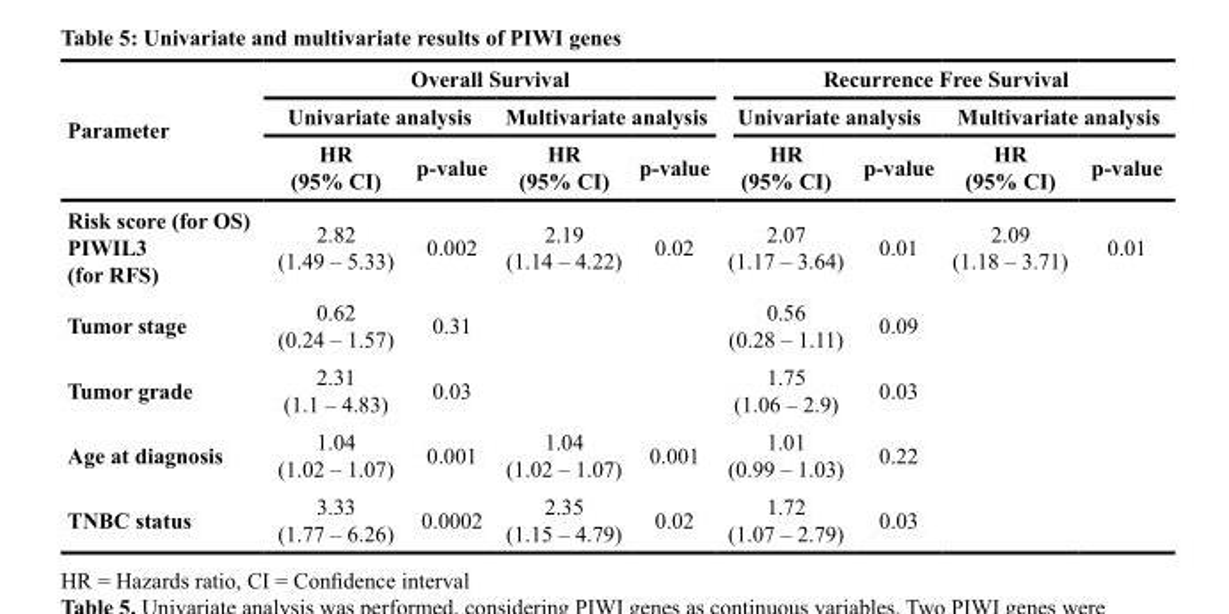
<table><thead><tr><td rowspan="3">Parameter</td><td colspan="4">Overall Survival</td><td colspan="4">Recurrence Free Survival</td></tr><tr><td colspan="2">Univariate analysis</td><td colspan="2">Multivariate analysis</td><td colspan="2">Univariate analysis</td><td colspan="2">Multivariate analysis</td></tr><tr><td>HR (95% CI)</td><td>p-value</td><td>HR (95% CI)</td><td>p-value</td><td>HR (95% CI)</td><td>p-value</td><td>HR (95% CI)</td><td>p-value</td></tr></thead><tbody><tr><td>Risk score (for OS) PIWIL3 (for RFS)</td><td>2.82 (1.49 – 5.33)</td><td>0.002</td><td>2.19 (1.14 – 4.22)</td><td>0.02</td><td>2.07 (1.17 – 3.64)</td><td>0.01</td><td>2.09 (1.18 – 3.71)</td><td>0.01</td></tr><tr><td>Tumor stage</td><td>0.62 (0.24 – 1.57)</td><td>0.31</td><td></td><td></td><td>0.56 (0.28 – 1.11)</td><td>0.09</td><td></td><td></td></tr><tr><td>Tumor grade</td><td>2.31 (1.1 – 4.83)</td><td>0.03</td><td></td><td></td><td>1.75 (1.06 – 2.9)</td><td>0.03</td><td></td><td></td></tr><tr><td>Age at diagnosis</td><td>1.04 (1.02 – 1.07)</td><td>0.001</td><td>1.04 (1.02 – 1.07)</td><td>0.001</td><td>1.01 (0.99 – 1.03)</td><td>0.22</td><td></td><td></td></tr><tr><td>TNBC status</td><td>3.33 (1.77 – 6.26)</td><td>0.0002</td><td>2.35 (1.15 – 4.79)</td><td>0.02</td><td>1.72 (1.07 – 2.79)</td><td>0.03</td><td></td><td></td></tr></tbody></table>